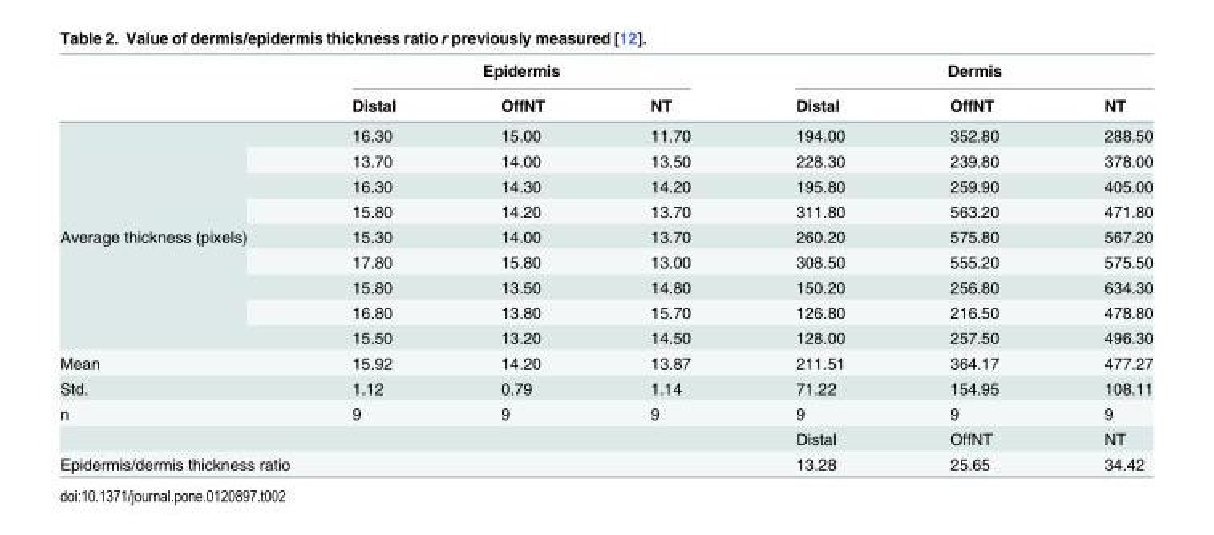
<table><thead><tr><td rowspan="2"></td><td colspan="3">Epidermis</td><td colspan="3">Dermis</td></tr><tr><td>Distal</td><td>OffNT</td><td>NT</td><td>Distal</td><td>OffNT</td><td>NT</td></tr></thead><tbody><tr><td rowspan="9">Average thickness (pixels)</td><td>16.30</td><td>15.00</td><td>11.70</td><td>194.00</td><td>352.80</td><td>288.50</td></tr><tr><td>13.70</td><td>14.00</td><td>13.50</td><td>228.30</td><td>239.80</td><td>378.00</td></tr><tr><td>16.30</td><td>14.30</td><td>14.20</td><td>195.80</td><td>259.90</td><td>405.00</td></tr><tr><td>15.80</td><td>14.20</td><td>13.70</td><td>311.80</td><td>563.20</td><td>471.80</td></tr><tr><td>15.30</td><td>14.00</td><td>13.70</td><td>260.20</td><td>575.80</td><td>567.20</td></tr><tr><td>17.80</td><td>15.80</td><td>13.00</td><td>308.50</td><td>555.20</td><td>575.50</td></tr><tr><td>15.80</td><td>13.50</td><td>14.80</td><td>150.20</td><td>256.80</td><td>634.30</td></tr><tr><td>16.80</td><td>13.80</td><td>15.70</td><td>126.80</td><td>216.50</td><td>478.80</td></tr><tr><td>15.50</td><td>13.20</td><td>14.50</td><td>128.00</td><td>257.50</td><td>496.30</td></tr><tr><td>Mean</td><td>15.92</td><td>14.20</td><td>13.87</td><td>211.51</td><td>364.17</td><td>477.27</td></tr><tr><td>Std.</td><td>1.12</td><td>0.79</td><td>1.14</td><td>71.22</td><td>154.95</td><td>108.11</td></tr><tr><td>n</td><td>9</td><td>9</td><td>9</td><td>9</td><td>9</td><td>9</td></tr><tr><td colspan="4"></td><td>Distal</td><td>OffNT</td><td>NT</td></tr><tr><td colspan="4">Epidermis/dermis thickness ratio</td><td>13.28</td><td>25.65</td><td>34.42</td></tr></tbody></table>